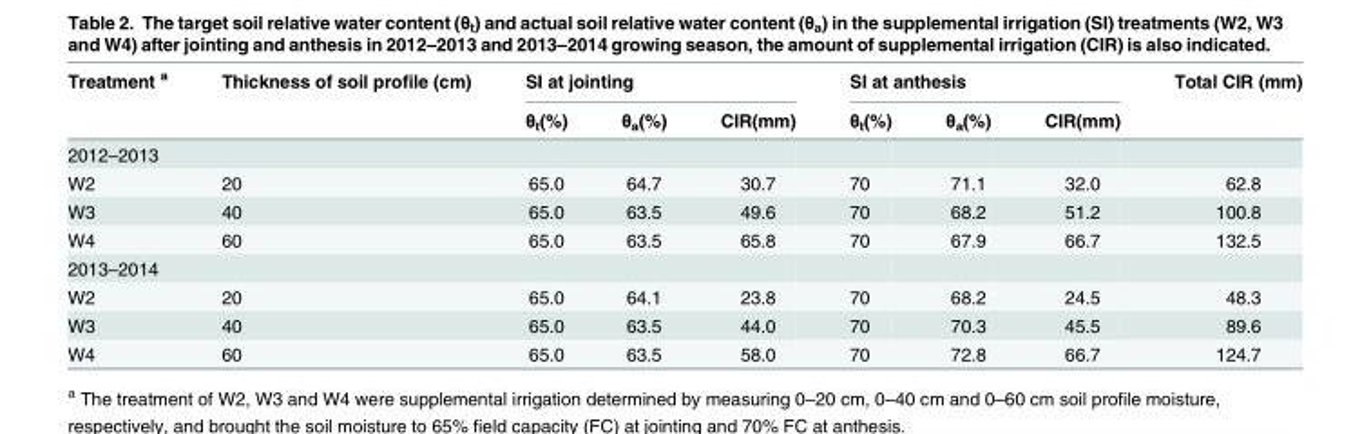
<table><thead><tr><td rowspan="2">Treatment <sup>a</sup></td><td rowspan="2">Thickness of soil profile (cm)</td><td colspan="3">SI at jointing</td><td colspan="3">SI at anthesis</td><td rowspan="2">Total CIR (mm)</td></tr><tr><td>θ<sub>t</sub>(%)</td><td>θ<sub>a</sub>(%)</td><td>CIR(mm)</td><td>θ<sub>t</sub>(%)</td><td>θ<sub>a</sub>(%)</td><td>CIR(mm)</td></tr></thead><tbody><tr><td colspan="9">2012–2013</td></tr><tr><td>W2</td><td>20</td><td>65.0</td><td>64.7</td><td>30.7</td><td>70</td><td>71.1</td><td>32.0</td><td>62.8</td></tr><tr><td>W3</td><td>40</td><td>65.0</td><td>63.5</td><td>49.6</td><td>70</td><td>68.2</td><td>51.2</td><td>100.8</td></tr><tr><td>W4</td><td>60</td><td>65.0</td><td>63.5</td><td>65.8</td><td>70</td><td>67.9</td><td>66.7</td><td>132.5</td></tr><tr><td colspan="9">2013–2014</td></tr><tr><td>W2</td><td>20</td><td>65.0</td><td>64.1</td><td>23.8</td><td>70</td><td>68.2</td><td>24.5</td><td>48.3</td></tr><tr><td>W3</td><td>40</td><td>65.0</td><td>63.5</td><td>44.0</td><td>70</td><td>70.3</td><td>45.5</td><td>89.6</td></tr><tr><td>W4</td><td>60</td><td>65.0</td><td>63.5</td><td>58.0</td><td>70</td><td>72.8</td><td>66.7</td><td>124.7</td></tr></tbody></table>